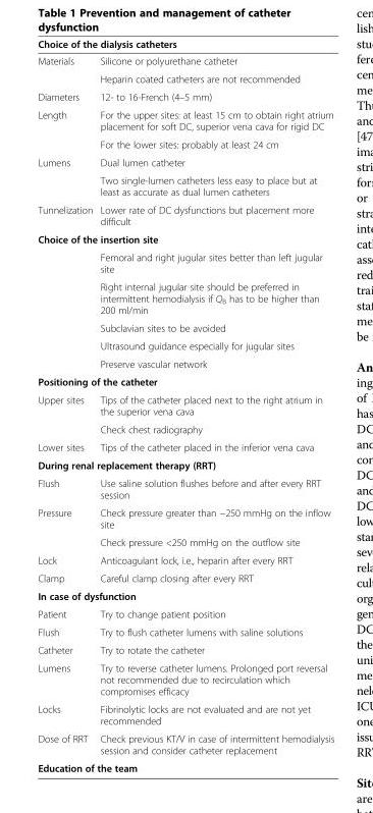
<table><thead><tr><td colspan="2">Choice of the dialysis catheters</td></tr><tr><td>Materials</td><td>Silicone or polyurethane catheter</td></tr></thead><tbody><tr><td></td><td>Heparin coated catheters are not recommended</td></tr><tr><td>Diameters</td><td>12- to 16-French (4–5 mm)</td></tr><tr><td rowspan="2">Length</td><td>For the upper sites: at least 15 cm to obtain right atrium placement for soft DC, superior vena cava for rigid DC</td></tr><tr><td>For the lower sites: probably at least 24 cm</td></tr><tr><td rowspan="2">Lumens</td><td>Dual lumen catheter</td></tr><tr><td>Two single-lumen catheters less easy to place but at least as accurate as dual lumen catheters</td></tr><tr><td>Tunnelization</td><td>Lower rate of DC dysfunctions but placement more difficult</td></tr><tr><td colspan="2">Choice of the insertion site</td></tr><tr><td></td><td>Femoral and right jugular sites better than left jugular site</td></tr><tr><td></td><td>Right internal jugular site should be preferred in intermittent hemodialysis if Q<sub>B</sub> has to be higher than 200 ml/min</td></tr><tr><td></td><td>Subclavian sites to be avoided</td></tr><tr><td></td><td>Ultrasound guidance especially for jugular sites</td></tr><tr><td></td><td>Preserve vascular network</td></tr><tr><td colspan="2">Positioning of the catheter</td></tr><tr><td rowspan="2">Upper sites</td><td>Tips of the catheter placed next to the right atrium in the superior vena cava</td></tr><tr><td>Check chest radiography</td></tr><tr><td>Lower sites</td><td>Tips of the catheter placed in the inferior vena cava</td></tr><tr><td colspan="2">During renal replacement therapy (RRT)</td></tr><tr><td>Flush</td><td>Use saline solution flushes before and after every RRT session</td></tr><tr><td rowspan="2">Pressure</td><td>Check pressure greater than −250 mmHg on the inflow site</td></tr><tr><td>Check pressure &lt;250 mmHg on the outflow site</td></tr><tr><td>Lock</td><td>Anticoagulant lock, i.e., heparin after every RRT</td></tr><tr><td>Clamp</td><td>Careful clamp closing after every RRT</td></tr><tr><td colspan="2">In case of dysfunction</td></tr><tr><td>Patient</td><td>Try to change patient position</td></tr><tr><td>Flush</td><td>Try to flush catheter lumens with saline solutions</td></tr><tr><td>Catheter</td><td>Try to rotate the catheter</td></tr><tr><td>Lumens</td><td>Try to reverse catheter lumens. Prolonged port reversal not recommended due to recirculation which compromises efficacy</td></tr><tr><td>Locks</td><td>Fibrinolytic locks are not evaluated and are not yet recommended</td></tr><tr><td>Dose of RRT</td><td>Check previous KT/V in case of intermittent hemodialysis session and consider catheter replacement</td></tr><tr><td colspan="2">Education of the team</td></tr></tbody></table>